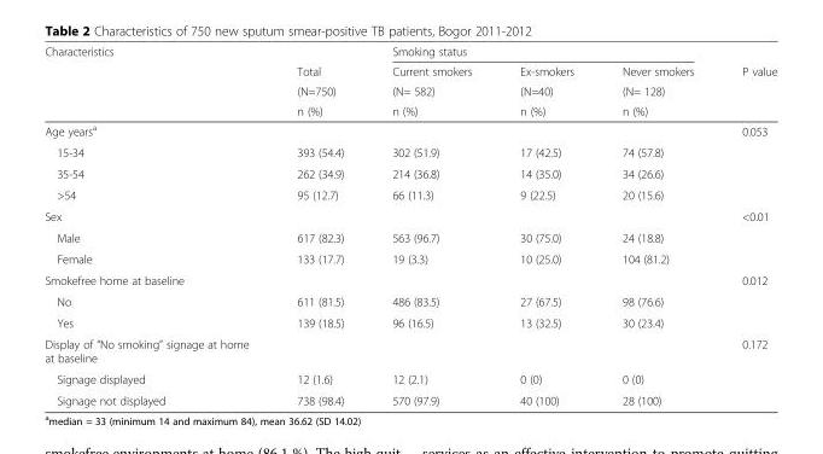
<table><thead><tr><td rowspan="4">Characteristics</td><td rowspan="4">Total (N=750) n (%)</td><td colspan="3">Smoking status</td><td rowspan="4">P value</td></tr><tr><td rowspan="3">Current smokers (N= 582) n (%)</td><td rowspan="3">Ex-smokers (N=40) n (%)</td><td rowspan="3">Never smokers (N= 128) n (%)</td></tr><tr></tr><tr></tr></thead><tbody><tr><td>Age years<sup>a</sup></td><td></td><td></td><td></td><td></td><td>0.053</td></tr><tr><td>15-34</td><td>393 (54.4)</td><td>302 (51.9)</td><td>17 (42.5)</td><td>74 (57.8)</td><td></td></tr><tr><td>35-54</td><td>262 (34.9)</td><td>214 (36.8)</td><td>14 (35.0)</td><td>34 (26.6)</td><td></td></tr><tr><td>&gt;54</td><td>95 (12.7)</td><td>66 (11.3)</td><td>9 (22.5)</td><td>20 (15.6)</td><td></td></tr><tr><td>Sex</td><td></td><td></td><td></td><td></td><td>&lt;0.01</td></tr><tr><td>Male</td><td>617 (82.3)</td><td>563 (96.7)</td><td>30 (75.0)</td><td>24 (18.8)</td><td></td></tr><tr><td>Female</td><td>133 (17.7)</td><td>19 (3.3)</td><td>10 (25.0)</td><td>104 (81.2)</td><td></td></tr><tr><td>Smokefree home at baseline</td><td></td><td></td><td></td><td></td><td>0.012</td></tr><tr><td>No</td><td>611 (81.5)</td><td>486 (83.5)</td><td>27 (67.5)</td><td>98 (76.6)</td><td></td></tr><tr><td>Yes</td><td>139 (18.5)</td><td>96 (16.5)</td><td>13 (32.5)</td><td>30 (23.4)</td><td></td></tr><tr><td>Display of “No smoking” signage at home at baseline</td><td></td><td></td><td></td><td></td><td>0.172</td></tr><tr><td>Signage displayed</td><td>12 (1.6)</td><td>12 (2.1)</td><td>0 (0)</td><td>0 (0)</td><td></td></tr><tr><td>Signage not displayed</td><td>738 (98.4)</td><td>570 (97.9)</td><td>40 (100)</td><td>28 (100)</td><td></td></tr></tbody></table>